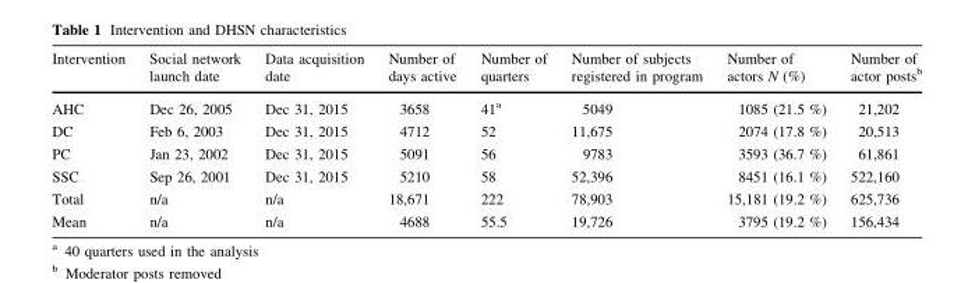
<table><thead><tr><td>Intervention</td><td>Social network launch date</td><td>Data acquisition date</td><td>Number of days active</td><td>Number of quarters</td><td>Number of subjects registered in program</td><td>Number of actors N (%)</td><td>Number of actor posts<sup>b</sup></td></tr></thead><tbody><tr><td>AHC</td><td>Dec 26, 2005</td><td>Dec 31, 2015</td><td>3658</td><td>41<sup>a</sup></td><td>5049</td><td>1085 (21.5 %)</td><td>21,202</td></tr><tr><td>DC</td><td>Feb 6, 2003</td><td>Dec 31, 2015</td><td>4712</td><td>52</td><td>11,675</td><td>2074 (17.8 %)</td><td>20,513</td></tr><tr><td>PC</td><td>Jan 23, 2002</td><td>Dec 31, 2015</td><td>5091</td><td>56</td><td>9783</td><td>3593 (36.7 %)</td><td>61,861</td></tr><tr><td>SSC</td><td>Sep 26, 2001</td><td>Dec 31, 2015</td><td>5210</td><td>58</td><td>52,396</td><td>8451 (16.1 %)</td><td>522,160</td></tr><tr><td>Total</td><td>n/a</td><td>n/a</td><td>18,671</td><td>222</td><td>78,903</td><td>15,181 (19.2 %)</td><td>625,736</td></tr><tr><td>Mean</td><td>n/a</td><td>n/a</td><td>4688</td><td>55.5</td><td>19,726</td><td>3795 (19.2 %)</td><td>156,434</td></tr></tbody></table>